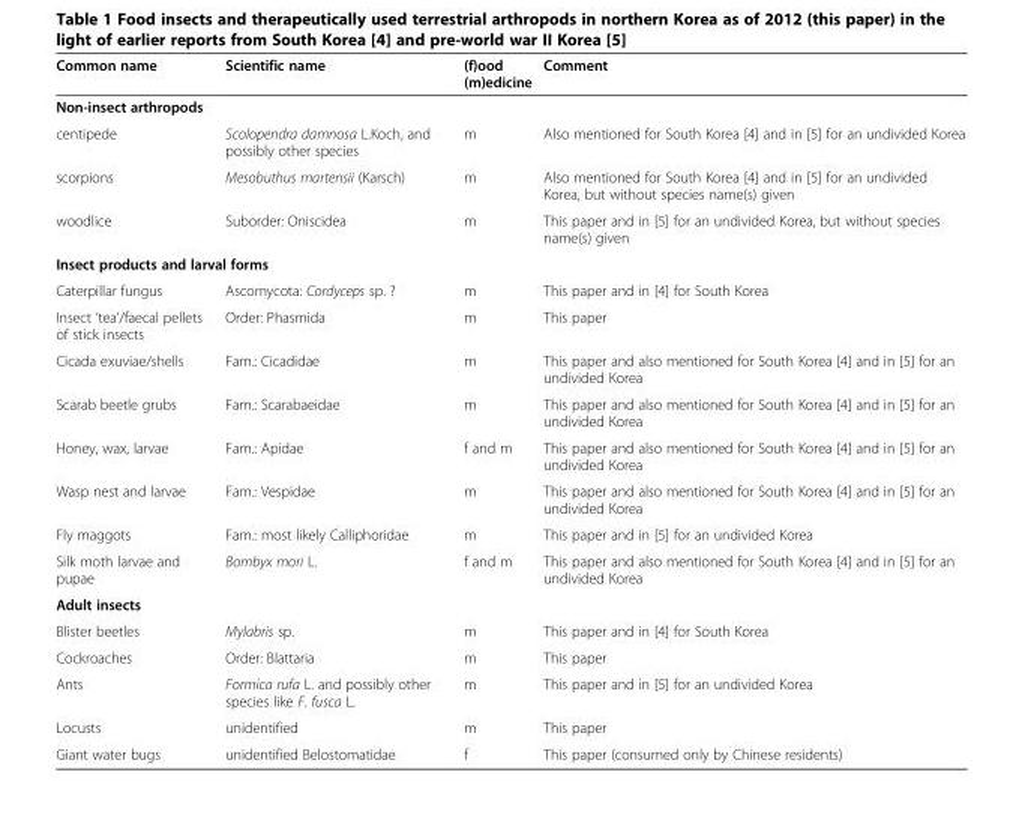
<table><thead><tr><td>Common name</td><td>Scientific name</td><td>(f)ood (m)edicine</td><td>Comment</td></tr></thead><tbody><tr><td colspan="4">Non-insect arthropods</td></tr><tr><td>centipede</td><td>Scolopendra damnosa L.Koch, and possibly other species</td><td>m</td><td>Also mentioned for South Korea [4] and in [5] for an undivided Korea</td></tr><tr><td>scorpions</td><td>Mesobuthus martensii (Karsch)</td><td>m</td><td>Also mentioned for South Korea [4] and in [5] for an undivided Korea, but without species name(s) given</td></tr><tr><td>woodlice</td><td>Suborder: Oniscidea</td><td>m</td><td>This paper and in [5] for an undivided Korea, but without species name(s) given</td></tr><tr><td colspan="4">Insect products and larval forms</td></tr><tr><td>Caterpillar fungus</td><td>Ascomycota: Cordyceps sp. ?</td><td>m</td><td>This paper and in [4] for South Korea</td></tr><tr><td>Insect ‘tea’/faecal pellets of stick insects</td><td>Order: Phasmida</td><td>m</td><td>This paper</td></tr><tr><td>Cicada exuviae/shells</td><td>Fam.: Cicadidae</td><td>m</td><td>This paper and also mentioned for South Korea [4] and in [5] for an undivided Korea</td></tr><tr><td>Scarab beetle grubs</td><td>Fam.: Scarabaeidae</td><td>m</td><td>This paper and also mentioned for South Korea [4] and in [5] for an undivided Korea</td></tr><tr><td>Honey, wax, larvae</td><td>Fam.: Apidae</td><td>f and m</td><td>This paper and also mentioned for South Korea [4] and in [5] for an undivided Korea</td></tr><tr><td>Wasp nest and larvae</td><td>Fam.: Vespidae</td><td>m</td><td>This paper and also mentioned for South Korea [4] and in [5] for an undivided Korea</td></tr><tr><td>Fly maggots</td><td>Fam.: most likely Calliphoridae</td><td>m</td><td>This paper and in [5] for an undivided Korea</td></tr><tr><td>Silk moth larvae and pupae</td><td>Bombyx mori L.</td><td>f and m</td><td>This paper and also mentioned for South Korea [4] and in [5] for an undivided Korea</td></tr><tr><td colspan="4">Adult insects</td></tr><tr><td>Blister beetles</td><td>Mylabris sp.</td><td>m</td><td>This paper and in [4] for South Korea</td></tr><tr><td>Cockroaches</td><td>Order: Blattaria</td><td>m</td><td>This paper</td></tr><tr><td>Ants</td><td>Formica rufa L. and possibly other species like F. fusca L.</td><td>m</td><td>This paper and in [5] for an undivided Korea</td></tr><tr><td>Locusts</td><td>unidentified</td><td>m</td><td>This paper</td></tr><tr><td>Giant water bugs</td><td>unidentified Belostomatidae</td><td>f</td><td>This paper (consumed only by Chinese residents)</td></tr></tbody></table>